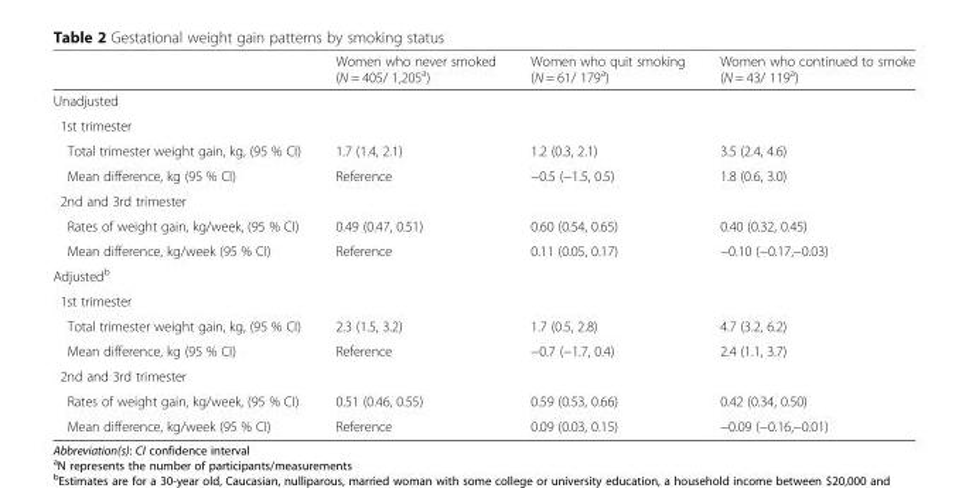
<table><thead><tr><td></td><td>Women who never smoked (N = 405/ 1,205<sup>a</sup>)</td><td>Women who quit smoking (N = 61/ 179<sup>a</sup>)</td><td>Women who continued to smoke (N = 43/ 119<sup>a</sup>)</td></tr></thead><tbody><tr><td colspan="4">Unadjusted</td></tr><tr><td colspan="4">1st trimester</td></tr><tr><td>Total trimester weight gain, kg, (95 % CI)</td><td>1.7 (1.4, 2.1)</td><td>1.2 (0.3, 2.1)</td><td>3.5 (2.4, 4.6)</td></tr><tr><td>Mean difference, kg (95 % CI)</td><td>Reference</td><td>−0.5 (−1.5, 0.5)</td><td>1.8 (0.6, 3.0)</td></tr><tr><td colspan="4">2nd and 3rd trimester</td></tr><tr><td>Rates of weight gain, kg/week, (95 % CI)</td><td>0.49 (0.47, 0.51)</td><td>0.60 (0.54, 0.65)</td><td>0.40 (0.32, 0.45)</td></tr><tr><td>Mean difference, kg/week (95 % CI)</td><td>Reference</td><td>0.11 (0.05, 0.17)</td><td>−0.10 (−0.17,−0.03)</td></tr><tr><td colspan="4">Adjusted<sup>b</sup></td></tr><tr><td colspan="4">1st trimester</td></tr><tr><td>Total trimester weight gain, kg, (95 % CI)</td><td>2.3 (1.5, 3.2)</td><td>1.7 (0.5, 2.8)</td><td>4.7 (3.2, 6.2)</td></tr><tr><td>Mean difference, kg (95 % CI)</td><td>Reference</td><td>−0.7 (−1.7, 0.4)</td><td>2.4 (1.1, 3.7)</td></tr><tr><td colspan="4">2nd and 3rd trimester</td></tr><tr><td>Rates of weight gain, kg/week, (95 % CI)</td><td>0.51 (0.46, 0.55)</td><td>0.59 (0.53, 0.66)</td><td>0.42 (0.34, 0.50)</td></tr><tr><td>Mean difference, kg/week (95 % CI)</td><td>Reference</td><td>0.09 (0.03, 0.15)</td><td>−0.09 (−0.16,−0.01)</td></tr></tbody></table>